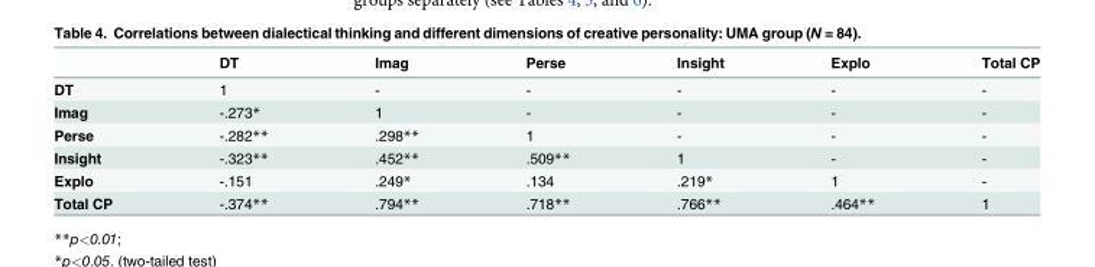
<table><thead><tr><td></td><td>DT</td><td>Imag</td><td>Perse</td><td>Insight</td><td>Explo</td><td>Total CP</td></tr></thead><tbody><tr><td>DT</td><td>1</td><td>-</td><td>-</td><td>-</td><td>-</td><td>-</td></tr><tr><td>Imag</td><td>-.273*</td><td>1</td><td>-</td><td>-</td><td>-</td><td>-</td></tr><tr><td>Perse</td><td>-.282**</td><td>.298**</td><td>1</td><td>-</td><td>-</td><td>-</td></tr><tr><td>Insight</td><td>-.323**</td><td>.452**</td><td>.509**</td><td>1</td><td>-</td><td>-</td></tr><tr><td>Explo</td><td>-.151</td><td>.249*</td><td>.134</td><td>.219*</td><td>1</td><td>-</td></tr><tr><td>Total CP</td><td>-.374**</td><td>.794**</td><td>.718**</td><td>.766**</td><td>.464**</td><td>1</td></tr></tbody></table>